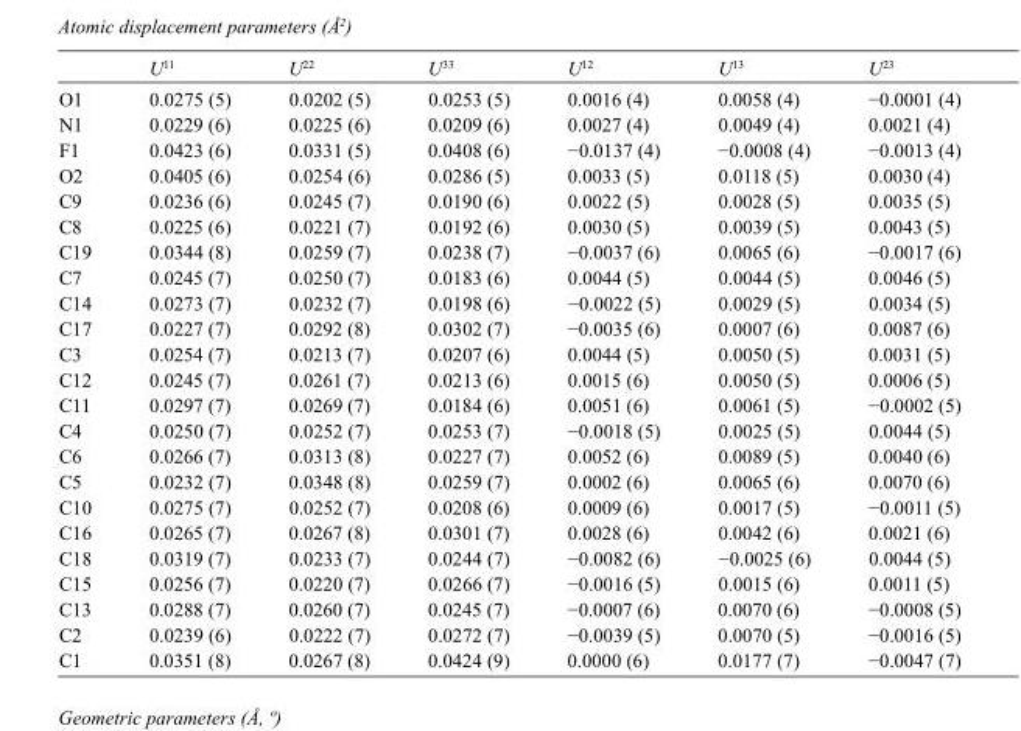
<table><thead><tr><td></td><td>U<sup>11</sup></td><td>U<sup>22</sup></td><td>U<sup>33</sup></td><td>U<sup>12</sup></td><td>U<sup>13</sup></td><td>U<sup>23</sup></td></tr></thead><tbody><tr><td>O1</td><td>0.0275 (5)</td><td>0.0202 (5)</td><td>0.0253 (5)</td><td>0.0016 (4)</td><td>0.0058 (4)</td><td>−0.0001 (4)</td></tr><tr><td>N1</td><td>0.0229 (6)</td><td>0.0225 (6)</td><td>0.0209 (6)</td><td>0.0027 (4)</td><td>0.0049 (4)</td><td>0.0021 (4)</td></tr><tr><td>F1</td><td>0.0423 (6)</td><td>0.0331 (5)</td><td>0.0408 (6)</td><td>−0.0137 (4)</td><td>−0.0008 (4)</td><td>−0.0013 (4)</td></tr><tr><td>O2</td><td>0.0405 (6)</td><td>0.0254 (6)</td><td>0.0286 (5)</td><td>0.0033 (5)</td><td>0.0118 (5)</td><td>0.0030 (4)</td></tr><tr><td>C9</td><td>0.0236 (6)</td><td>0.0245 (7)</td><td>0.0190 (6)</td><td>0.0022 (5)</td><td>0.0028 (5)</td><td>0.0035 (5)</td></tr><tr><td>C8</td><td>0.0225 (6)</td><td>0.0221 (7)</td><td>0.0192 (6)</td><td>0.0030 (5)</td><td>0.0039 (5)</td><td>0.0043 (5)</td></tr><tr><td>C19</td><td>0.0344 (8)</td><td>0.0259 (7)</td><td>0.0238 (7)</td><td>−0.0037 (6)</td><td>0.0065 (6)</td><td>−0.0017 (6)</td></tr><tr><td>C7</td><td>0.0245 (7)</td><td>0.0250 (7)</td><td>0.0183 (6)</td><td>0.0044 (5)</td><td>0.0044 (5)</td><td>0.0046 (5)</td></tr><tr><td>C14</td><td>0.0273 (7)</td><td>0.0232 (7)</td><td>0.0198 (6)</td><td>−0.0022 (5)</td><td>0.0029 (5)</td><td>0.0034 (5)</td></tr><tr><td>C17</td><td>0.0227 (7)</td><td>0.0292 (8)</td><td>0.0302 (7)</td><td>−0.0035 (6)</td><td>0.0007 (6)</td><td>0.0087 (6)</td></tr><tr><td>C3</td><td>0.0254 (7)</td><td>0.0213 (7)</td><td>0.0207 (6)</td><td>0.0044 (5)</td><td>0.0050 (5)</td><td>0.0031 (5)</td></tr><tr><td>C12</td><td>0.0245 (7)</td><td>0.0261 (7)</td><td>0.0213 (6)</td><td>0.0015 (6)</td><td>0.0050 (5)</td><td>0.0006 (5)</td></tr><tr><td>C11</td><td>0.0297 (7)</td><td>0.0269 (7)</td><td>0.0184 (6)</td><td>0.0051 (6)</td><td>0.0061 (5)</td><td>−0.0002 (5)</td></tr><tr><td>C4</td><td>0.0250 (7)</td><td>0.0252 (7)</td><td>0.0253 (7)</td><td>−0.0018 (5)</td><td>0.0025 (5)</td><td>0.0044 (5)</td></tr><tr><td>C6</td><td>0.0266 (7)</td><td>0.0313 (8)</td><td>0.0227 (7)</td><td>0.0052 (6)</td><td>0.0089 (5)</td><td>0.0040 (6)</td></tr><tr><td>C5</td><td>0.0232 (7)</td><td>0.0348 (8)</td><td>0.0259 (7)</td><td>0.0002 (6)</td><td>0.0065 (6)</td><td>0.0070 (6)</td></tr><tr><td>C10</td><td>0.0275 (7)</td><td>0.0252 (7)</td><td>0.0208 (6)</td><td>0.0009 (6)</td><td>0.0017 (5)</td><td>−0.0011 (5)</td></tr><tr><td>C16</td><td>0.0265 (7)</td><td>0.0267 (8)</td><td>0.0301 (7)</td><td>0.0028 (6)</td><td>0.0042 (6)</td><td>0.0021 (6)</td></tr><tr><td>C18</td><td>0.0319 (7)</td><td>0.0233 (7)</td><td>0.0244 (7)</td><td>−0.0082 (6)</td><td>−0.0025 (6)</td><td>0.0044 (5)</td></tr><tr><td>C15</td><td>0.0256 (7)</td><td>0.0220 (7)</td><td>0.0266 (7)</td><td>−0.0016 (5)</td><td>0.0015 (6)</td><td>0.0011 (5)</td></tr><tr><td>C13</td><td>0.0288 (7)</td><td>0.0260 (7)</td><td>0.0245 (7)</td><td>−0.0007 (6)</td><td>0.0070 (6)</td><td>−0.0008 (5)</td></tr><tr><td>C2</td><td>0.0239 (6)</td><td>0.0222 (7)</td><td>0.0272 (7)</td><td>−0.0039 (5)</td><td>0.0070 (5)</td><td>−0.0016 (5)</td></tr><tr><td>C1</td><td>0.0351 (8)</td><td>0.0267 (8)</td><td>0.0424 (9)</td><td>0.0000 (6)</td><td>0.0177 (7)</td><td>−0.0047 (7)</td></tr></tbody></table>